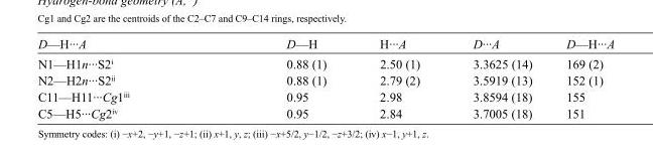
<table><tbody><tr><td>D—H···A</td><td>D—H</td><td>H···A</td><td>D···A</td><td>D—H···A</td></tr><tr><td>N1—H1n···S2<sup>i</sup></td><td>0.88 (1)</td><td>2.50 (1)</td><td>3.3625 (14)</td><td>169 (2)</td></tr><tr><td>N2—H2n···S2<sup>ii</sup></td><td>0.88 (1)</td><td>2.79 (2)</td><td>3.5919 (13)</td><td>152 (1)</td></tr><tr><td>C11—H11···Cg1<sup>iii</sup></td><td>0.95</td><td>2.98</td><td>3.8594 (18)</td><td>155</td></tr><tr><td>C5—H5···Cg2<sup>iv</sup></td><td>0.95</td><td>2.84</td><td>3.7005 (18)</td><td>151</td></tr></tbody></table>